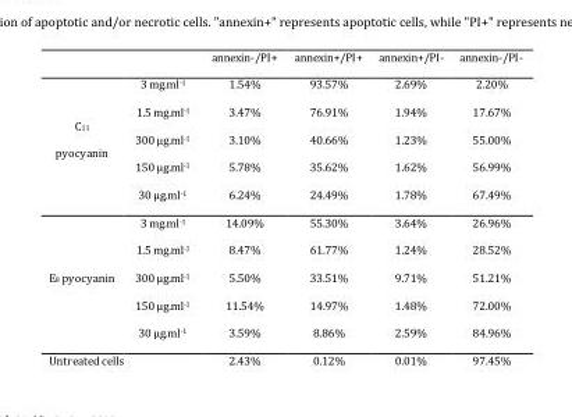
<table><thead><tr><td></td><td></td><td>annexin-/PI+</td><td>annexin+/PI+</td><td>annexin+/PI-</td><td>annexin-/PI-</td></tr></thead><tbody><tr><td rowspan="5">C<sub>11</sub> pyocyanin</td><td>3 mg.ml<sup>-1</sup></td><td>1.54%</td><td>93.57%</td><td>2.69%</td><td>2.20%</td></tr><tr><td>1.5 mg.ml<sup>-1</sup></td><td>3.47%</td><td>76.91%</td><td>1.94%</td><td>17.67%</td></tr><tr><td>300 μg.ml<sup>-1</sup></td><td>3.10%</td><td>40.66%</td><td>1.23%</td><td>55.00%</td></tr><tr><td>150 μg.ml<sup>-1</sup></td><td>5.78%</td><td>35.62%</td><td>1.62%</td><td>56.99%</td></tr><tr><td>30 μg.ml<sup>-1</sup></td><td>6.24%</td><td>24.49%</td><td>1.78%</td><td>67.49%</td></tr><tr><td rowspan="5">E<sub>8</sub> pyocyanin</td><td>3 mg.ml<sup>-1</sup></td><td>14.09%</td><td>55.30%</td><td>3.64%</td><td>26.96%</td></tr><tr><td>1.5 mg.ml<sup>-1</sup></td><td>8.47%</td><td>61.77%</td><td>1.24%</td><td>28.52%</td></tr><tr><td>300 μg.ml<sup>-1</sup></td><td>5.50%</td><td>33.51%</td><td>9.71%</td><td>51.21%</td></tr><tr><td>150 μg.ml<sup>-1</sup></td><td>11.54%</td><td>14.97%</td><td>1.48%</td><td>72.00%</td></tr><tr><td>30 μg.ml<sup>-1</sup></td><td>3.59%</td><td>8.86%</td><td>2.59%</td><td>84.96%</td></tr><tr><td colspan="2">Untreated cells</td><td>2.43%</td><td>0.12%</td><td>0.01%</td><td>97.45%</td></tr></tbody></table>